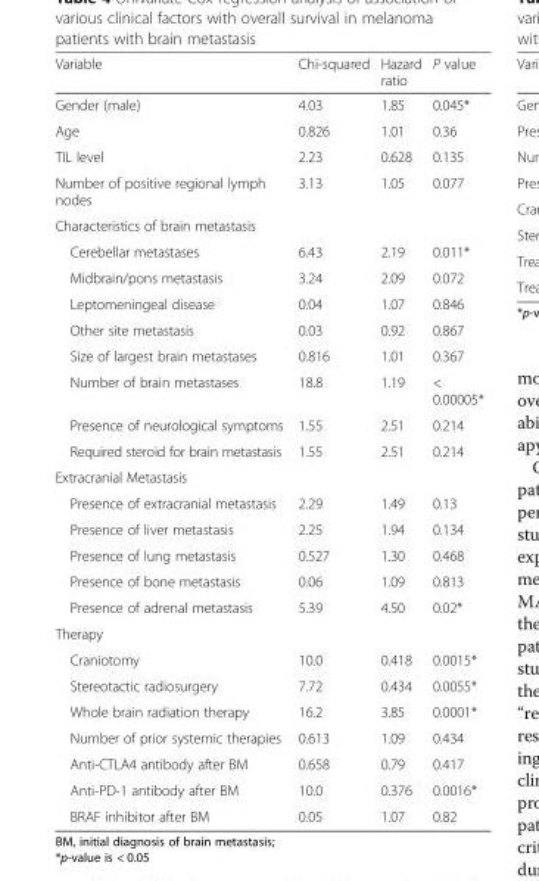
<table><thead><tr><td>Variable</td><td>Chi-squared</td><td>Hazard ratio</td><td>P value</td></tr></thead><tbody><tr><td>Gender (male)</td><td>4.03</td><td>1.85</td><td>0.045*</td></tr><tr><td>Age</td><td>0.826</td><td>1.01</td><td>0.36</td></tr><tr><td>TIL level</td><td>2.23</td><td>0.628</td><td>0.135</td></tr><tr><td>Number of positive regional lymph nodes</td><td>3.13</td><td>1.05</td><td>0.077</td></tr><tr><td colspan="4">Characteristics of brain metastasis</td></tr><tr><td>Cerebellar metastases</td><td>6.43</td><td>2.19</td><td>0.011*</td></tr><tr><td>Midbrain/pons metastasis</td><td>3.24</td><td>2.09</td><td>0.072</td></tr><tr><td>Leptomeningeal disease</td><td>0.04</td><td>1.07</td><td>0.846</td></tr><tr><td>Other site metastasis</td><td>0.03</td><td>0.92</td><td>0.867</td></tr><tr><td>Size of largest brain metastases</td><td>0.816</td><td>1.01</td><td>0.367</td></tr><tr><td>Number of brain metastases</td><td>18.8</td><td>1.19</td><td>&lt; 0.00005*</td></tr><tr><td>Presence of neurological symptoms</td><td>1.55</td><td>2.51</td><td>0.214</td></tr><tr><td>Required steroid for brain metastasis</td><td>1.55</td><td>2.51</td><td>0.214</td></tr><tr><td colspan="4">Extracranial Metastasis</td></tr><tr><td>Presence of extracranial metastasis</td><td>2.29</td><td>1.49</td><td>0.13</td></tr><tr><td>Presence of liver metastasis</td><td>2.25</td><td>1.94</td><td>0.134</td></tr><tr><td>Presence of lung metastasis</td><td>0.527</td><td>1.30</td><td>0.468</td></tr><tr><td>Presence of bone metastasis</td><td>0.06</td><td>1.09</td><td>0.813</td></tr><tr><td>Presence of adrenal metastasis</td><td>5.39</td><td>4.50</td><td>0.02*</td></tr><tr><td colspan="4">Therapy</td></tr><tr><td>Craniotomy</td><td>10.0</td><td>0.418</td><td>0.0015*</td></tr><tr><td>Stereotactic radiosurgery</td><td>7.72</td><td>0.434</td><td>0.0055*</td></tr><tr><td>Whole brain radiation therapy</td><td>16.2</td><td>3.85</td><td>0.0001*</td></tr><tr><td>Number of prior systemic therapies</td><td>0.613</td><td>1.09</td><td>0.434</td></tr><tr><td>Anti-CTLA4 antibody after BM</td><td>0.658</td><td>0.79</td><td>0.417</td></tr><tr><td>Anti-PD-1 antibody after BM</td><td>10.0</td><td>0.376</td><td>0.0016*</td></tr><tr><td>BRAF inhibitor after BM</td><td>0.05</td><td>1.07</td><td>0.82</td></tr></tbody></table>